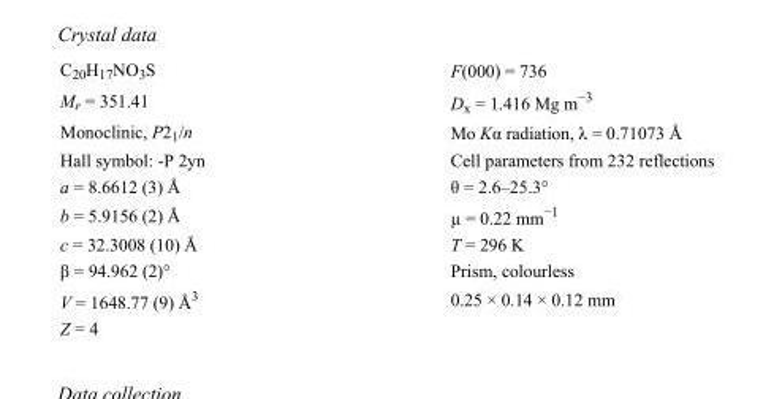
<table><tbody><tr><td>C<sub>20</sub>H<sub>17</sub>NO<sub>3</sub>S</td><td>F(000) = 736</td></tr><tr><td>M<sub>r</sub> = 351.41</td><td>D<sub>x</sub> = 1.416 Mg m<sup>−3</sup></td></tr><tr><td>Monoclinic, P2<sub>1</sub>/n</td><td>Mo Kα radiation, λ = 0.71073 Å</td></tr><tr><td>Hall symbol: -P 2yn</td><td>Cell parameters from 232 reflections</td></tr><tr><td>a = 8.6612 (3) Å</td><td>θ = 2.6–25.3°</td></tr><tr><td>b = 5.9156 (2) Å</td><td>µ = 0.22 mm<sup>−1</sup></td></tr><tr><td>c = 32.3008 (10) Å</td><td>T = 296 K</td></tr><tr><td>β = 94.962 (2)°</td><td>Prism, colourless</td></tr><tr><td>V = 1648.77 (9) Å<sup>3</sup></td><td>0.25 × 0.14 × 0.12 mm</td></tr><tr><td>Z = 4</td><td></td></tr></tbody></table>